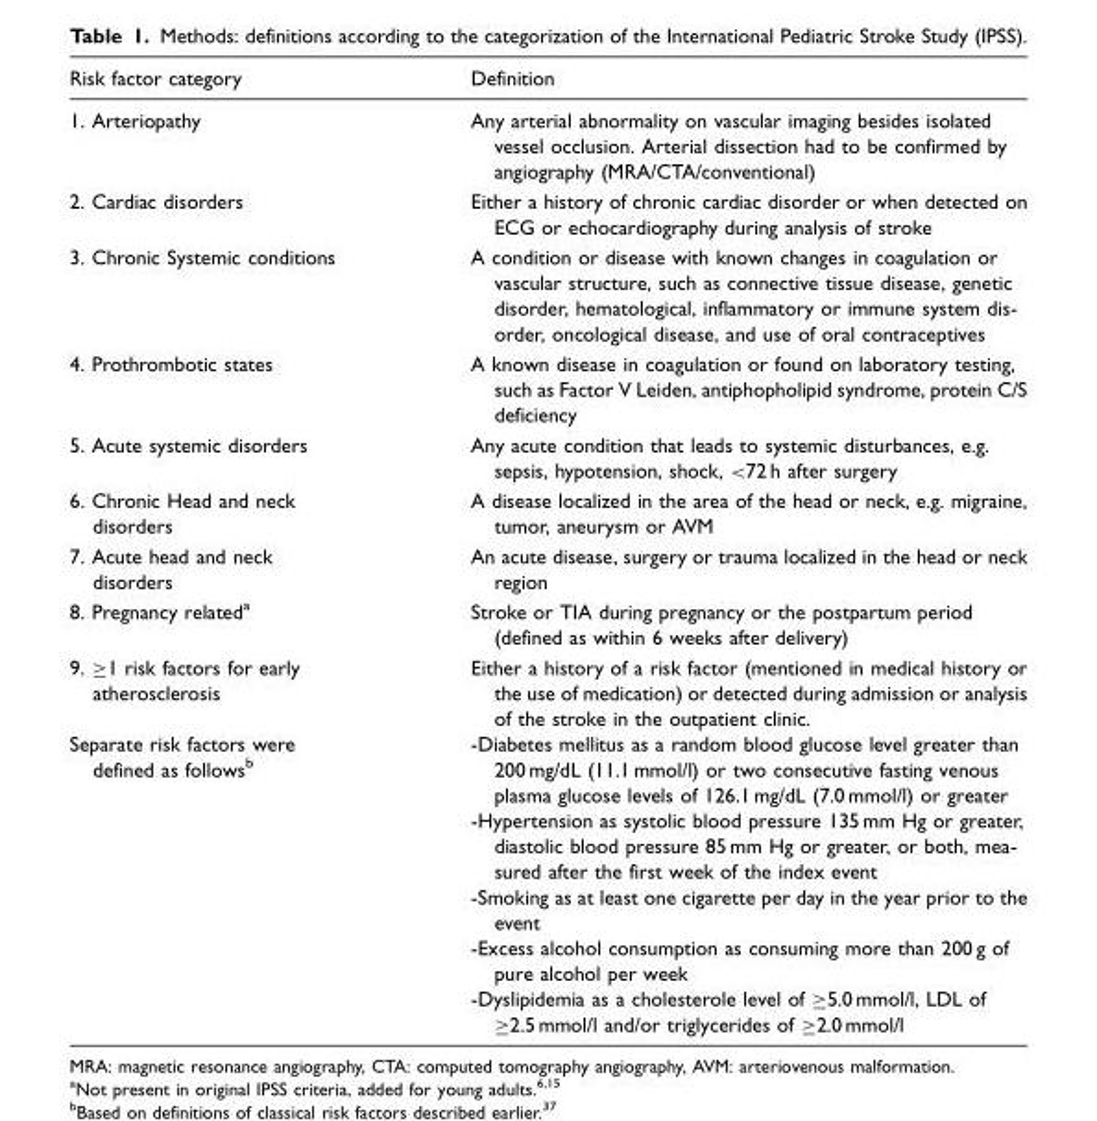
<table><thead><tr><td>Risk factor category</td><td>Definition</td></tr></thead><tbody><tr><td>1. Arteriopathy</td><td>Any arterial abnormality on vascular imaging besides isolated vessel occlusion. Arterial dissection had to be confirmed by angiography (MRA/CTA/conventional)</td></tr><tr><td>2. Cardiac disorders</td><td>Either a history of chronic cardiac disorder or when detected on ECG or echocardiography during analysis of stroke</td></tr><tr><td>3. Chronic Systemic conditions</td><td>A condition or disease with known changes in coagulation or vascular structure, such as connective tissue disease, genetic disorder, hematological, inflammatory or immune system dis- order, oncological disease, and use of oral contraceptives</td></tr><tr><td>4. Prothrombotic states</td><td>A known disease in coagulation or found on laboratory testing, such as Factor V Leiden, antiphopholipid syndrome, protein C/S deficiency</td></tr><tr><td>5. Acute systemic disorders</td><td>Any acute condition that leads to systemic disturbances, e.g. sepsis, hypotension, shock, &lt;72 h after surgery</td></tr><tr><td>6. Chronic Head and neck disorders</td><td>A disease localized in the area of the head or neck, e.g. migraine, tumor, aneurysm or AVM</td></tr><tr><td>7. Acute head and neck disorders</td><td>An acute disease, surgery or trauma localized in the head or neck region</td></tr><tr><td>8. Pregnancy related<sup>a</sup></td><td>Stroke or TIA during pregnancy or the postpartum period (defined as within 6 weeks after delivery)</td></tr><tr><td>9. ≥1 risk factors for early atherosclerosis Separate risk factors were defined as follows<sup>b</sup></td><td>Either a history of a risk factor (mentioned in medical history or the use of medication) or detected during admission or analysis of the stroke in the outpatient clinic. -Diabetes mellitus as a random blood glucose level greater than 200 mg/dL (11.1 mmol/l) or two consecutive fasting venous plasma glucose levels of 126.1 mg/dL (7.0 mmol/l) or greater -Hypertension as systolic blood pressure 135 mm Hg or greater, diastolic blood pressure 85 mm Hg or greater, or both, mea- sured after the first week of the index event -Smoking as at least one cigarette per day in the year prior to the event -Excess alcohol consumption as consuming more than 200 g of pure alcohol per week -Dyslipidemia as a cholesterole level of �5.0 mmol/l, LDL of �2.5 mmol/l and/or triglycerides of �2.0 mmol/l</td></tr></tbody></table>